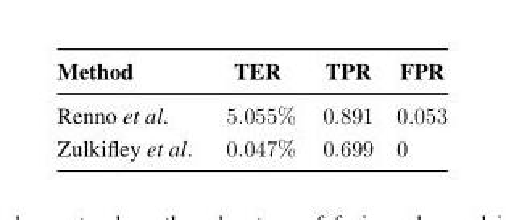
<table><thead><tr><td>Method</td><td>TER</td><td>TPR</td><td>FPR</td></tr></thead><tbody><tr><td>Renno et al.</td><td>5.055%</td><td>0.891</td><td>0.053</td></tr><tr><td>Zulkifley et al.</td><td>0.047%</td><td>0.699</td><td>0</td></tr></tbody></table>